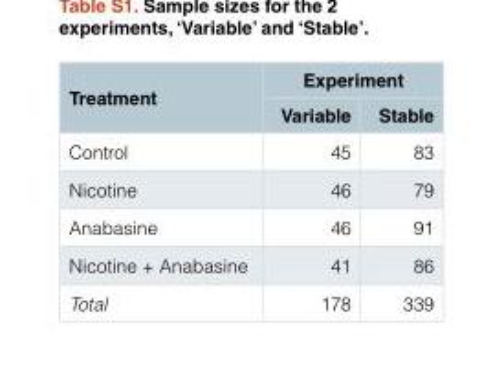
<table><thead><tr><td rowspan="2">Treatment</td><td colspan="2">Experiment</td></tr><tr><td>Variable</td><td>Stable</td></tr></thead><tbody><tr><td>Control</td><td>45</td><td>83</td></tr><tr><td>Nicotine</td><td>46</td><td>79</td></tr><tr><td>Anabasine</td><td>46</td><td>91</td></tr><tr><td>Nicotine + Anabasine</td><td>41</td><td>86</td></tr><tr><td>Total</td><td>178</td><td>339</td></tr></tbody></table>